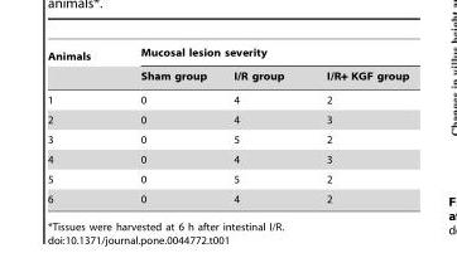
<table><thead><tr><td rowspan="2">Animals</td><td colspan="3">Mucosal lesion severity</td></tr><tr><td>Sham group</td><td>I/R group</td><td>I/R+ KGF group</td></tr></thead><tbody><tr><td>1</td><td>0</td><td>4</td><td>2</td></tr><tr><td>2</td><td>0</td><td>4</td><td>3</td></tr><tr><td>3</td><td>0</td><td>5</td><td>2</td></tr><tr><td>4</td><td>0</td><td>4</td><td>3</td></tr><tr><td>5</td><td>0</td><td>5</td><td>2</td></tr><tr><td>6</td><td>0</td><td>4</td><td>2</td></tr></tbody></table>